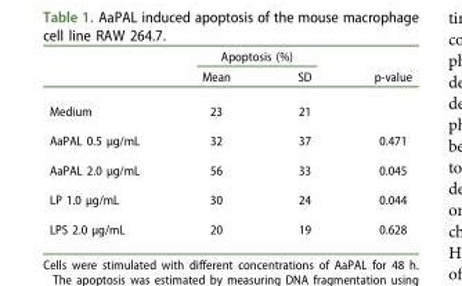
<table><thead><tr><td rowspan="2"></td><td colspan="2">Apoptosis (%)</td><td rowspan="2">p-value</td></tr><tr><td>Mean</td><td>SD</td></tr></thead><tbody><tr><td>Medium</td><td>23</td><td>21</td><td></td></tr><tr><td>AaPAL 0.5 µg/mL</td><td>32</td><td>37</td><td>0.471</td></tr><tr><td>AaPAL 2.0 µg/mL</td><td>56</td><td>33</td><td>0.045</td></tr><tr><td>LP 1.0 µg/mL</td><td>30</td><td>24</td><td>0.044</td></tr><tr><td>LPS 2.0 µg/mL</td><td>20</td><td>19</td><td>0.628</td></tr></tbody></table>